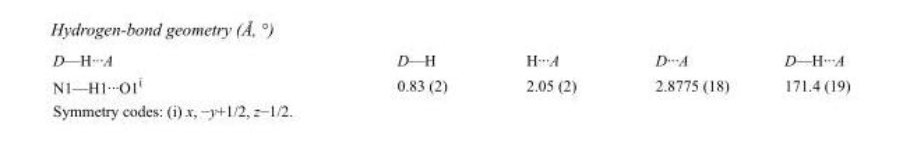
<table><tbody><tr><td>D—H···A</td><td>D—H</td><td>H···A</td><td>D···A</td><td>D—H···A</td></tr><tr><td>N1—H1···O1<sup>i</sup></td><td>0.83 (2)</td><td>2.05 (2)</td><td>2.8775 (18)</td><td>171.4 (19)</td></tr></tbody></table>